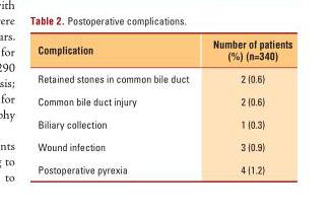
<table><thead><tr><td>Complication</td><td>Number of patients (%) (n=340)</td></tr></thead><tbody><tr><td>Retained stones in common bile duct</td><td>2 (0.6)</td></tr><tr><td>Common bile duct injury</td><td>2 (0.6)</td></tr><tr><td>Biliary collection</td><td>1 (0.3)</td></tr><tr><td>Wound infection</td><td>3 (0.9)</td></tr><tr><td>Postoperative pyrexia</td><td>4 (1.2)</td></tr></tbody></table>